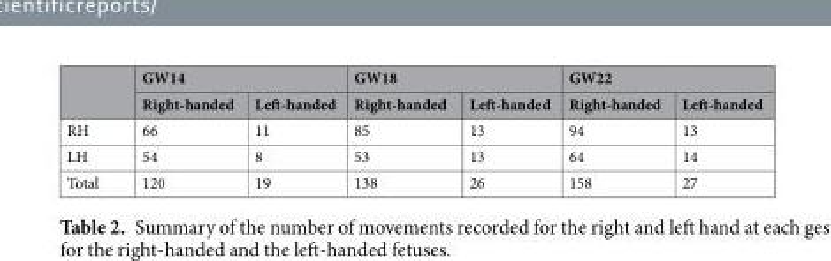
<table><thead><tr><td rowspan="2"></td><td colspan="2">GW14</td><td colspan="2">GW18</td><td colspan="2">GW22</td></tr><tr><td>Right-handed</td><td>Left-handed</td><td>Right-handed</td><td>Left-handed</td><td>Right-handed</td><td>Left-handed</td></tr></thead><tbody><tr><td>RH</td><td>66</td><td>11</td><td>85</td><td>13</td><td>94</td><td>13</td></tr><tr><td>LH</td><td>54</td><td>8</td><td>53</td><td>13</td><td>64</td><td>14</td></tr><tr><td>Total</td><td>120</td><td>19</td><td>138</td><td>26</td><td>158</td><td>27</td></tr></tbody></table>